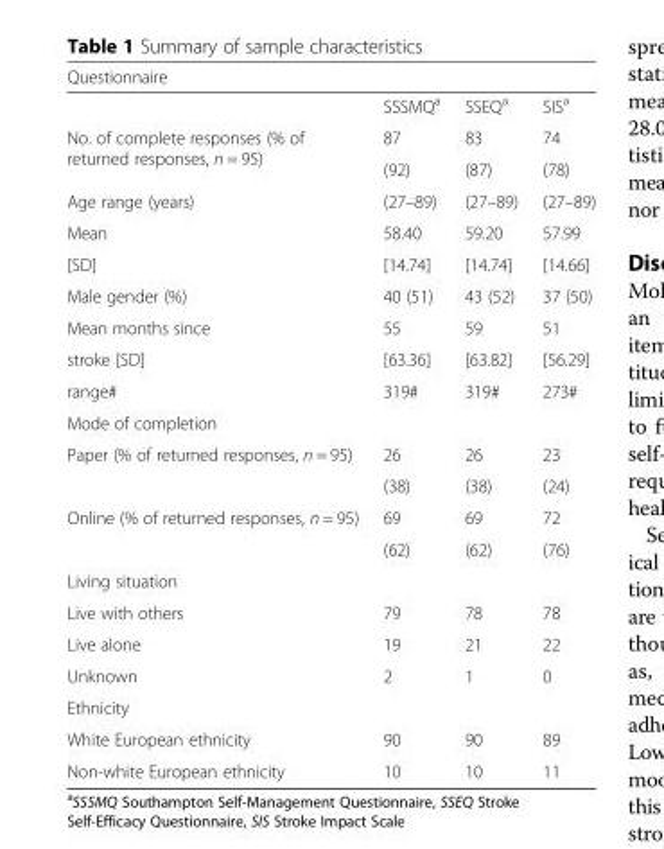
<table><thead><tr><td colspan="4">Questionnaire</td></tr><tr><td></td><td>SSSMQ<sup>a</sup></td><td>SSEQ<sup>a</sup></td><td>SIS<sup>a</sup></td></tr></thead><tbody><tr><td rowspan="2">No. of complete responses (% of returned responses, n = 95)</td><td>87</td><td>83</td><td>74</td></tr><tr><td>(92)</td><td>(87)</td><td>(78)</td></tr><tr><td>Age range (years)</td><td>(27–89)</td><td>(27–89)</td><td>(27–89)</td></tr><tr><td>Mean</td><td>58.40</td><td>59.20</td><td>57.99</td></tr><tr><td>[SD]</td><td>[14.74]</td><td>[14.74]</td><td>[14.66]</td></tr><tr><td>Male gender (%)</td><td>40 (51)</td><td>43 (52)</td><td>37 (50)</td></tr><tr><td>Mean months since</td><td>55</td><td>59</td><td>51</td></tr><tr><td>stroke [SD]</td><td>[63.36]</td><td>[63.82]</td><td>[56.29]</td></tr><tr><td>range#</td><td>319#</td><td>319#</td><td>273#</td></tr><tr><td colspan="4">Mode of completion</td></tr><tr><td rowspan="2">Paper (% of returned responses, n = 95)</td><td>26</td><td>26</td><td>23</td></tr><tr><td>(38)</td><td>(38)</td><td>(24)</td></tr><tr><td rowspan="2">Online (% of returned responses, n = 95)</td><td>69</td><td>69</td><td>72</td></tr><tr><td>(62)</td><td>(62)</td><td>(76)</td></tr><tr><td colspan="4">Living situation</td></tr><tr><td>Live with others</td><td>79</td><td>78</td><td>78</td></tr><tr><td>Live alone</td><td>19</td><td>21</td><td>22</td></tr><tr><td>Unknown</td><td>2</td><td>1</td><td>0</td></tr><tr><td colspan="4">Ethnicity</td></tr><tr><td>White European ethnicity</td><td>90</td><td>90</td><td>89</td></tr><tr><td>Non-white European ethnicity</td><td>10</td><td>10</td><td>11</td></tr></tbody></table>